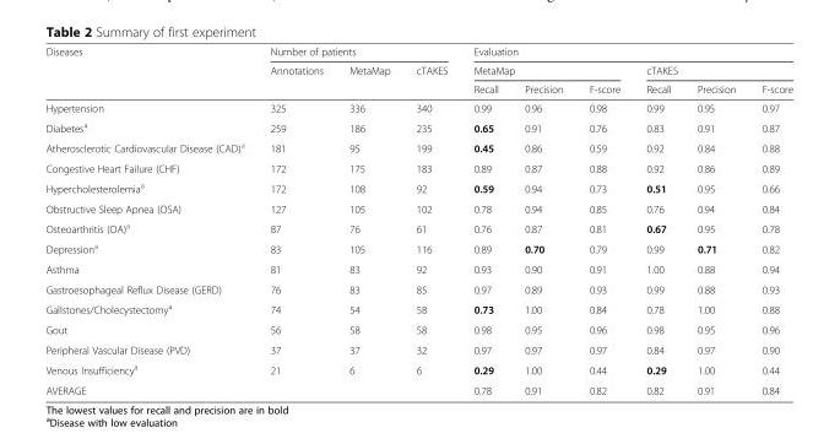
<table><thead><tr><td rowspan="3">Diseases</td><td colspan="3">Number of patients</td><td colspan="6">Evaluation</td></tr><tr><td rowspan="2">Annotations</td><td rowspan="2">MetaMap</td><td rowspan="2">cTAKES</td><td colspan="3">MetaMap</td><td colspan="3">cTAKES</td></tr><tr><td>Recall</td><td>Precision</td><td>F-score</td><td>Recall</td><td>Precision</td><td>F-score</td></tr></thead><tbody><tr><td>Hypertension</td><td>325</td><td>336</td><td>340</td><td>0.99</td><td>0.96</td><td>0.98</td><td>0.99</td><td>0.95</td><td>0.97</td></tr><tr><td>Diabetes<sup>a</sup></td><td>259</td><td>186</td><td>235</td><td>0.65</td><td>0.91</td><td>0.76</td><td>0.83</td><td>0.91</td><td>0.87</td></tr><tr><td>Atherosclerotic Cardiovascular Disease (CAD)<sup>a</sup></td><td>181</td><td>95</td><td>199</td><td>0.45</td><td>0.86</td><td>0.59</td><td>0.92</td><td>0.84</td><td>0.88</td></tr><tr><td>Congestive Heart Failure (CHF)</td><td>172</td><td>175</td><td>183</td><td>0.89</td><td>0.87</td><td>0.88</td><td>0.92</td><td>0.86</td><td>0.89</td></tr><tr><td>Hypercholesterolemia<sup>a</sup></td><td>172</td><td>108</td><td>92</td><td>0.59</td><td>0.94</td><td>0.73</td><td>0.51</td><td>0.95</td><td>0.66</td></tr><tr><td>Obstructive Sleep Apnea (OSA)</td><td>127</td><td>105</td><td>102</td><td>0.78</td><td>0.94</td><td>0.85</td><td>0.76</td><td>0.94</td><td>0.84</td></tr><tr><td>Osteoarthritis (OA)<sup>a</sup></td><td>87</td><td>76</td><td>61</td><td>0.76</td><td>0.87</td><td>0.81</td><td>0.67</td><td>0.95</td><td>0.78</td></tr><tr><td>Depression<sup>a</sup></td><td>83</td><td>105</td><td>116</td><td>0.89</td><td>0.70</td><td>0.79</td><td>0.99</td><td>0.71</td><td>0.82</td></tr><tr><td>Asthma</td><td>81</td><td>83</td><td>92</td><td>0.93</td><td>0.90</td><td>0.91</td><td>1.00</td><td>0.88</td><td>0.94</td></tr><tr><td>Gastroesophageal Reflux Disease (GERD)</td><td>76</td><td>83</td><td>85</td><td>0.97</td><td>0.89</td><td>0.93</td><td>0.99</td><td>0.88</td><td>0.93</td></tr><tr><td>Gallstones/Cholecystectomy<sup>a</sup></td><td>74</td><td>54</td><td>58</td><td>0.73</td><td>1.00</td><td>0.84</td><td>0.78</td><td>1.00</td><td>0.88</td></tr><tr><td>Gout</td><td>56</td><td>58</td><td>58</td><td>0.98</td><td>0.95</td><td>0.96</td><td>0.98</td><td>0.95</td><td>0.96</td></tr><tr><td>Peripheral Vascular Disease (PVD)</td><td>37</td><td>37</td><td>32</td><td>0.97</td><td>0.97</td><td>0.97</td><td>0.84</td><td>0.97</td><td>0.90</td></tr><tr><td>Venous Insufficiency<sup>a</sup></td><td>21</td><td>6</td><td>6</td><td>0.29</td><td>1.00</td><td>0.44</td><td>0.29</td><td>1.00</td><td>0.44</td></tr><tr><td>AVERAGE</td><td></td><td></td><td></td><td>0.78</td><td>0.91</td><td>0.82</td><td>0.82</td><td>0.91</td><td>0.84</td></tr></tbody></table>